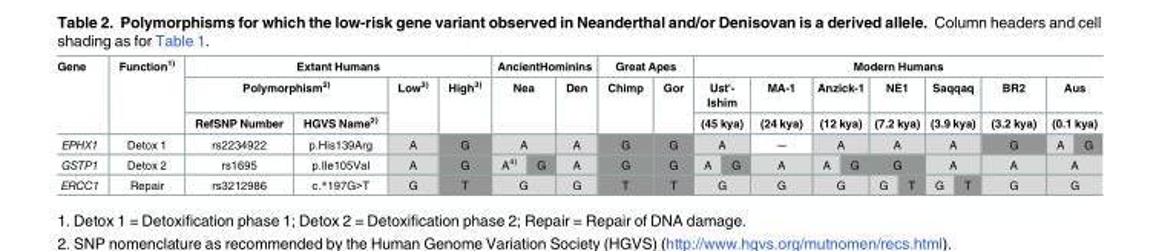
<table><thead><tr><td rowspan="6">Gene EPHX1 GSTP1 ERCC1</td><td rowspan="6">Function<sup>1)</sup> Detox 1 Detox 2 Repair</td><td colspan="4">Extant Humans</td><td colspan="3">AncientHominins</td><td colspan="2">Great Apes</td><td colspan="12">Modern Humans</td></tr><tr><td colspan="2">Polymorphism<sup>2)</sup></td><td rowspan="5">Low<sup>3)</sup> A A G</td><td rowspan="5">High<sup>3)</sup> G G T</td><td rowspan="3" colspan="2">Nea A</td><td rowspan="5">Den A A G</td><td rowspan="5">Chimp G G T</td><td rowspan="5">Gor G G T</td><td rowspan="3" colspan="2">Ust&#x27;- Ishim (45 kya) A</td><td rowspan="5">MA-1 (24 kya) ─ A G</td><td rowspan="3" colspan="2">Anzick-1 (12 kya) A</td><td rowspan="4" colspan="2">NE1 (7.2 kya) A G</td><td rowspan="4" colspan="2">Saqqaq (3.9 kya) A A</td><td rowspan="5">BR2 (3.2 kya) G A G</td><td rowspan="2" colspan="2">Aus (0.1 kya)</td></tr><tr><td rowspan="4">RefSNP Number rs2234922 rs1695 rs3212986</td><td rowspan="4">HGVS Name<sup>2)</sup> p.His139Arg p.Ile105Val c.*197G&gt;T</td></tr><tr><td>A</td><td>G</td></tr><tr><td>A<sup>4)</sup></td><td>G</td><td>A</td><td>G</td><td>A</td><td>G</td><td rowspan="2" colspan="2">A G</td></tr><tr><td colspan="2">G</td><td colspan="2">G</td><td colspan="2">G</td><td>G</td><td>T</td><td>G</td><td>T</td></tr></thead><tbody></tbody></table>